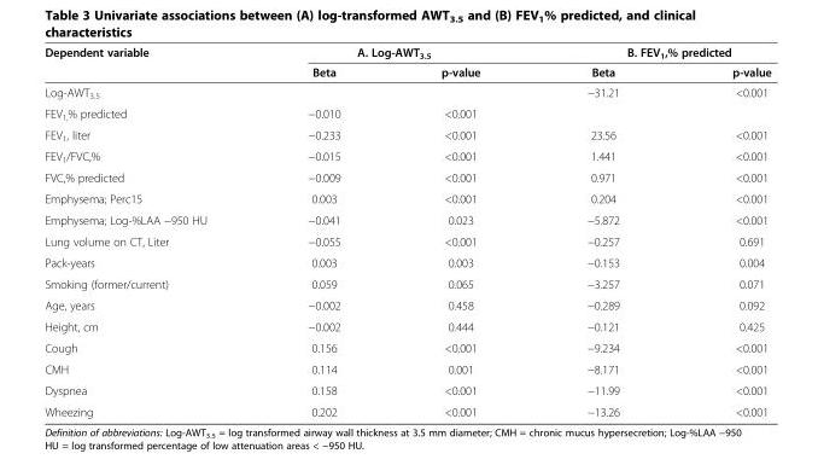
<table><thead><tr><td rowspan="2">Dependent variable</td><td colspan="2">A. Log-AWT<sub>3.5</sub></td><td colspan="2">B. FEV<sub>1</sub>,% predicted</td></tr><tr><td>Beta</td><td>p-value</td><td>Beta</td><td>p-value</td></tr></thead><tbody><tr><td>Log-AWT<sub>3.5</sub></td><td></td><td></td><td>−31.21</td><td>&lt;0.001</td></tr><tr><td>FEV<sub>1,</sub>% predicted</td><td>−0.010</td><td>&lt;0.001</td><td></td><td></td></tr><tr><td>FEV<sub>1</sub>, liter</td><td>−0.233</td><td>&lt;0.001</td><td>23.56</td><td>&lt;0.001</td></tr><tr><td>FEV<sub>1</sub>/FVC,%</td><td>−0.015</td><td>&lt;0.001</td><td>1.441</td><td>&lt;0.001</td></tr><tr><td>FVC,% predicted</td><td>−0.009</td><td>&lt;0.001</td><td>0.971</td><td>&lt;0.001</td></tr><tr><td>Emphysema; Perc15</td><td>0.003</td><td>&lt;0.001</td><td>0.204</td><td>&lt;0.001</td></tr><tr><td>Emphysema; Log-%LAA −950 HU</td><td>−0.041</td><td>0.023</td><td>−5.872</td><td>&lt;0.001</td></tr><tr><td>Lung volume on CT, Liter</td><td>−0.055</td><td>&lt;0.001</td><td>−0.257</td><td>0.691</td></tr><tr><td>Pack-years</td><td>0.003</td><td>0.003</td><td>−0.153</td><td>0.004</td></tr><tr><td>Smoking (former/current)</td><td>0.059</td><td>0.065</td><td>−3.257</td><td>0.071</td></tr><tr><td>Age, years</td><td>−0.002</td><td>0.458</td><td>−0.289</td><td>0.092</td></tr><tr><td>Height, cm</td><td>−0.002</td><td>0.444</td><td>−0.121</td><td>0.425</td></tr><tr><td>Cough</td><td>0.156</td><td>&lt;0.001</td><td>−9.234</td><td>&lt;0.001</td></tr><tr><td>CMH</td><td>0.114</td><td>0.001</td><td>−8.171</td><td>&lt;0.001</td></tr><tr><td>Dyspnea</td><td>0.158</td><td>&lt;0.001</td><td>−11.99</td><td>&lt;0.001</td></tr><tr><td>Wheezing</td><td>0.202</td><td>&lt;0.001</td><td>−13.26</td><td>&lt;0.001</td></tr></tbody></table>